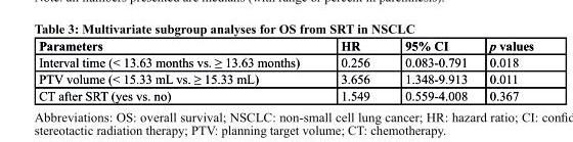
<table><thead><tr><td>Parameters</td><td>Hr</td><td>95% cI</td><td>p values</td></tr></thead><tbody><tr><td>Interval time (&lt; 13.63 months vs. ≥ 13.63 months)</td><td>0.256</td><td>0.083-0.791</td><td>0.018</td></tr><tr><td>PTV volume (&lt; 15.33 mL vs. ≥ 15.33 mL)</td><td>3.656</td><td>1.348-9.913</td><td>0.011</td></tr><tr><td>CT after SRT (yes vs. no)</td><td>1.549</td><td>0.559-4.008</td><td>0.367</td></tr></tbody></table>